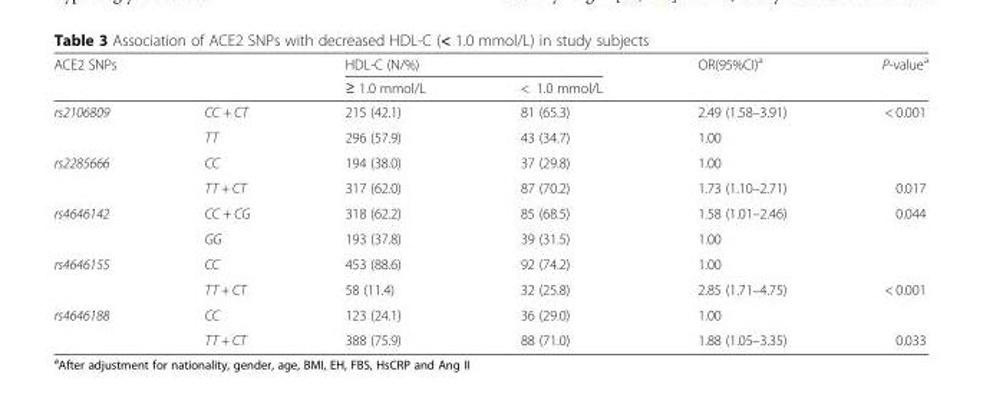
<table><thead><tr><td rowspan="2" colspan="2">ACE2 SNPs</td><td colspan="2">HDL-C (N/%)</td><td rowspan="3">OR(95%CI)<sup>a</sup> 2.49 (1.58–3.91)</td><td rowspan="3">P-value<sup>a</sup> &lt; 0.001</td></tr><tr><td rowspan="2">≥ 1.0 mmol/L 215 (42.1)</td><td rowspan="2">&lt; 1.0 mmol/L 81 (65.3)</td></tr><tr><td>rs2106809</td><td>CC + CT</td></tr></thead><tbody><tr><td></td><td>TT</td><td>296 (57.9)</td><td>43 (34.7)</td><td>1.00</td><td></td></tr><tr><td rowspan="2">rs2285666</td><td>CC</td><td>194 (38.0)</td><td>37 (29.8)</td><td>1.00</td><td></td></tr><tr><td>TT + CT</td><td>317 (62.0)</td><td>87 (70.2)</td><td>1.73 (1.10–2.71)</td><td>0.017</td></tr><tr><td rowspan="2">rs4646142</td><td>CC + CG</td><td>318 (62.2)</td><td>85 (68.5)</td><td>1.58 (1.01–2.46)</td><td>0.044</td></tr><tr><td>GG</td><td>193 (37.8)</td><td>39 (31.5)</td><td>1.00</td><td></td></tr><tr><td rowspan="2">rs4646155</td><td>CC</td><td>453 (88.6)</td><td>92 (74.2)</td><td>1.00</td><td></td></tr><tr><td>TT + CT</td><td>58 (11.4)</td><td>32 (25.8)</td><td>2.85 (1.71–4.75)</td><td>&lt; 0.001</td></tr><tr><td rowspan="2">rs4646188</td><td>CC</td><td>123 (24.1)</td><td>36 (29.0)</td><td>1.00</td><td></td></tr><tr><td>TT + CT</td><td>388 (75.9)</td><td>88 (71.0)</td><td>1.88 (1.05–3.35)</td><td>0.033</td></tr></tbody></table>